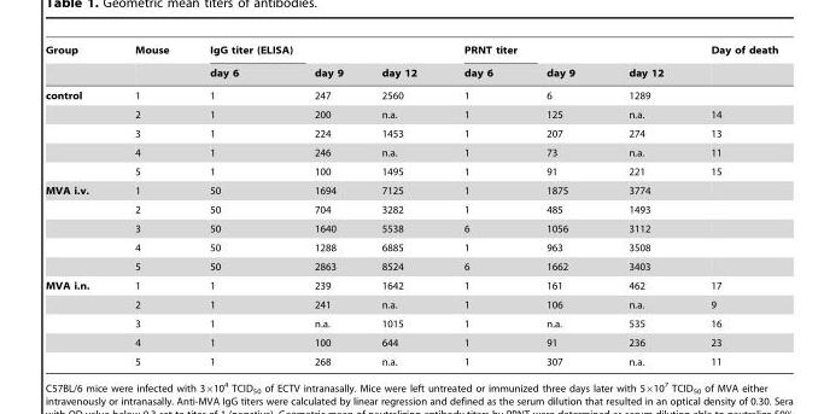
<table><thead><tr><td rowspan="2">Group</td><td rowspan="2">Mouse</td><td rowspan="2">IgG titer (ELISA) day 6</td><td rowspan="2">day 9</td><td rowspan="2">day 12</td><td rowspan="2">PRNT titer day 6</td><td rowspan="2">day 9</td><td rowspan="2">day 12</td><td rowspan="2">Day of death</td></tr><tr></tr></thead><tbody><tr><td rowspan="5">control</td><td>1</td><td>1</td><td>247</td><td>2560</td><td>1</td><td>6</td><td>1289</td><td></td></tr><tr><td>2</td><td>1</td><td>200</td><td>n.a.</td><td>1</td><td>125</td><td>n.a.</td><td>14</td></tr><tr><td>3</td><td>1</td><td>224</td><td>1453</td><td>1</td><td>207</td><td>274</td><td>13</td></tr><tr><td>4</td><td>1</td><td>246</td><td>n.a.</td><td>1</td><td>73</td><td>n.a.</td><td>11</td></tr><tr><td>5</td><td>1</td><td>100</td><td>1495</td><td>1</td><td>91</td><td>221</td><td>15</td></tr><tr><td rowspan="5">MVA i.v.</td><td>1</td><td>50</td><td>1694</td><td>7125</td><td>1</td><td>1875</td><td>3774</td><td></td></tr><tr><td>2</td><td>50</td><td>704</td><td>3282</td><td>1</td><td>485</td><td>1493</td><td></td></tr><tr><td>3</td><td>50</td><td>1640</td><td>5538</td><td>6</td><td>1056</td><td>3112</td><td></td></tr><tr><td>4</td><td>50</td><td>1288</td><td>6885</td><td>1</td><td>963</td><td>3508</td><td></td></tr><tr><td>5</td><td>50</td><td>2863</td><td>8524</td><td>6</td><td>1662</td><td>3403</td><td></td></tr><tr><td rowspan="5">MVA i.n.</td><td>1</td><td>1</td><td>239</td><td>1642</td><td>1</td><td>161</td><td>462</td><td>17</td></tr><tr><td>2</td><td>1</td><td>241</td><td>n.a.</td><td>1</td><td>106</td><td>n.a.</td><td>9</td></tr><tr><td>3</td><td>1</td><td>n.a.</td><td>1015</td><td>1</td><td>n.a.</td><td>535</td><td>16</td></tr><tr><td>4</td><td>1</td><td>100</td><td>644</td><td>1</td><td>91</td><td>236</td><td>23</td></tr><tr><td>5</td><td>1</td><td>268</td><td>n.a.</td><td>1</td><td>307</td><td>n.a.</td><td>11</td></tr></tbody></table>